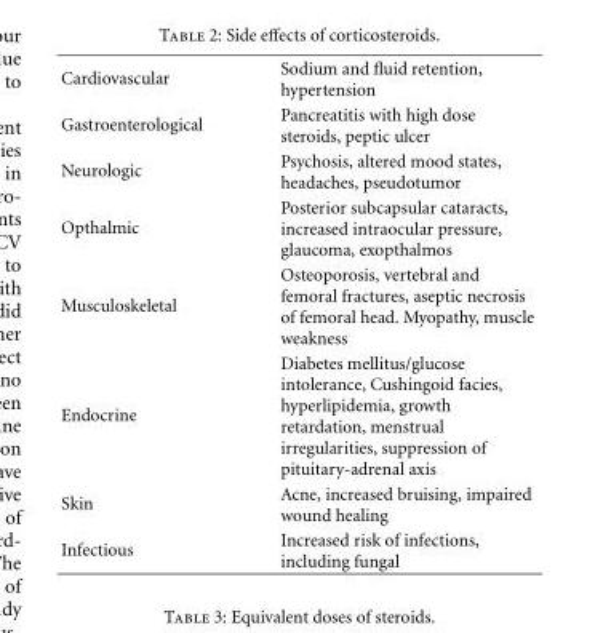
<table><tbody><tr><td>Cardiovascular</td><td>Sodium and fluid retention, hypertension</td></tr><tr><td>Gastroenterological</td><td>Pancreatitis with high dose steroids, peptic ulcer</td></tr><tr><td>Neurologic</td><td>Psychosis, altered mood states, headaches, pseudotumor</td></tr><tr><td>Opthalmic</td><td>Posterior subcapsular cataracts, increased intraocular pressure, glaucoma, exopthalmos</td></tr><tr><td>Musculoskeletal</td><td>Osteoporosis, vertebral and femoral fractures, aseptic necrosis of femoral head. Myopathy, muscle weakness</td></tr><tr><td>Endocrine</td><td>Diabetes mellitus/glucose intolerance, Cushingoid facies, hyperlipidemia, growth retardation, menstrual irregularities, suppression of pituitary-adrenal axis</td></tr><tr><td>Skin</td><td>Acne, increased bruising, impaired wound healing</td></tr><tr><td>Infectious</td><td>Increased risk of infections, including fungal</td></tr></tbody></table>